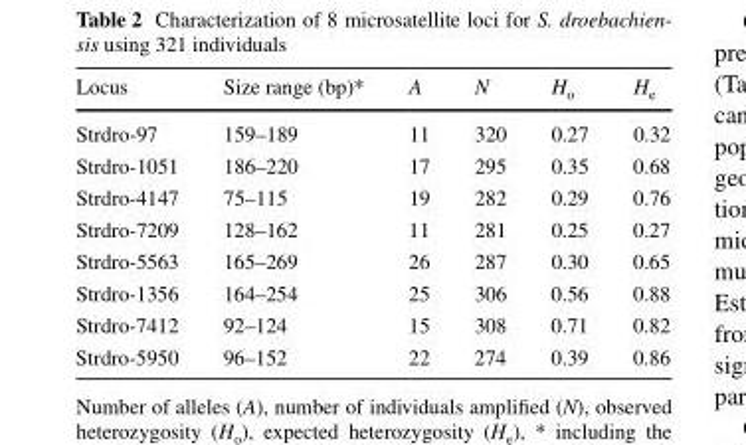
<table><thead><tr><td>Locus</td><td>Size range (bp)*</td><td>A</td><td>N</td><td>H<sub>o</sub></td><td>H<sub>e</sub></td></tr></thead><tbody><tr><td>Strdro-97</td><td>159–189</td><td>11</td><td>320</td><td>0.27</td><td>0.32</td></tr><tr><td>Strdro-1051</td><td>186–220</td><td>17</td><td>295</td><td>0.35</td><td>0.68</td></tr><tr><td>Strdro-4147</td><td>75–115</td><td>19</td><td>282</td><td>0.29</td><td>0.76</td></tr><tr><td>Strdro-7209</td><td>128–162</td><td>11</td><td>281</td><td>0.25</td><td>0.27</td></tr><tr><td>Strdro-5563</td><td>165–269</td><td>26</td><td>287</td><td>0.30</td><td>0.65</td></tr><tr><td>Strdro-1356</td><td>164–254</td><td>25</td><td>306</td><td>0.56</td><td>0.88</td></tr><tr><td>Strdro-7412</td><td>92–124</td><td>15</td><td>308</td><td>0.71</td><td>0.82</td></tr><tr><td>Strdro-5950</td><td>96–152</td><td>22</td><td>274</td><td>0.39</td><td>0.86</td></tr></tbody></table>